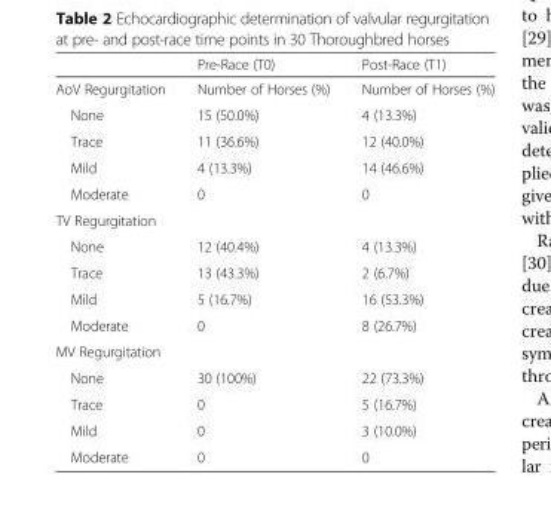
<table><thead><tr><td></td><td>Pre-Race (T0)</td><td>Post-Race (T1)</td></tr></thead><tbody><tr><td>AoV Regurgitation</td><td>Number of Horses (%)</td><td>Number of Horses (%)</td></tr><tr><td>None</td><td>15 (50.0%)</td><td>4 (13.3%)</td></tr><tr><td>Trace</td><td>11 (36.6%)</td><td>12 (40.0%)</td></tr><tr><td>Mild</td><td>4 (13.3%)</td><td>14 (46.6%)</td></tr><tr><td>Moderate</td><td>0</td><td>0</td></tr><tr><td colspan="3">TV Regurgitation</td></tr><tr><td>None</td><td>12 (40.4%)</td><td>4 (13.3%)</td></tr><tr><td>Trace</td><td>13 (43.3%)</td><td>2 (6.7%)</td></tr><tr><td>Mild</td><td>5 (16.7%)</td><td>16 (53.3%)</td></tr><tr><td>Moderate</td><td>0</td><td>8 (26.7%)</td></tr><tr><td colspan="3">MV Regurgitation</td></tr><tr><td>None</td><td>30 (100%)</td><td>22 (73.3%)</td></tr><tr><td>Trace</td><td>0</td><td>5 (16.7%)</td></tr><tr><td>Mild</td><td>0</td><td>3 (10.0%)</td></tr><tr><td>Moderate</td><td>0</td><td>0</td></tr></tbody></table>